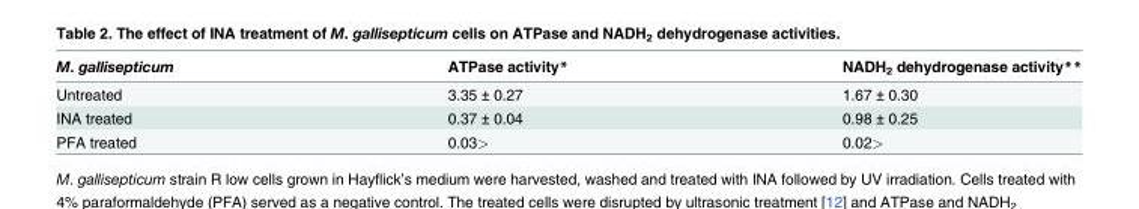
<table><thead><tr><td>M. gallisepticum</td><td>ATPase activity*</td><td>NADH<sub>2</sub> dehydrogenase activity**</td></tr></thead><tbody><tr><td>Untreated</td><td>3.35 ± 0.27</td><td>1.67 ± 0.30</td></tr><tr><td>INA treated</td><td>0.37 ± 0.04</td><td>0.98 ± 0.25</td></tr><tr><td>PFA treated</td><td>0.03&gt;</td><td>0.02&gt;</td></tr></tbody></table>